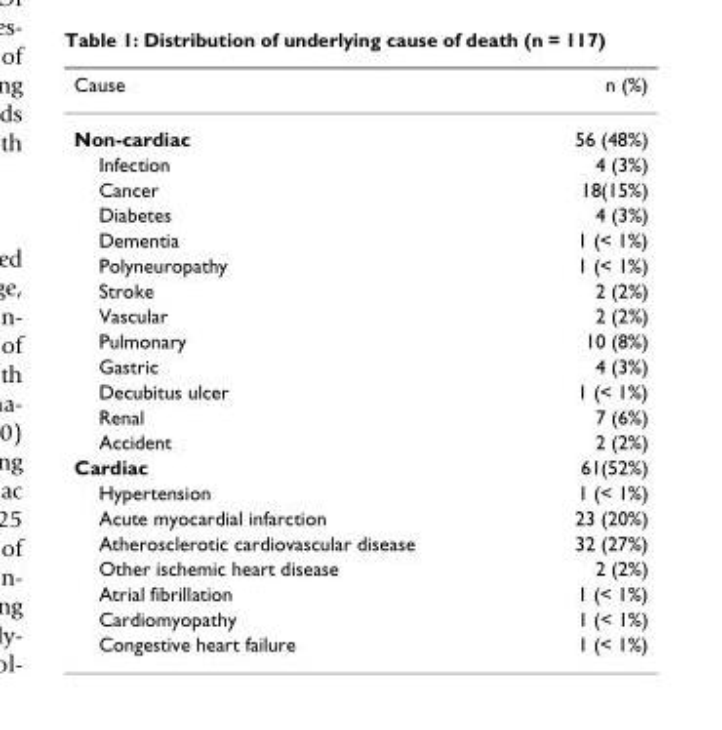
<table><thead><tr><td>Cause</td><td>n (%)</td></tr></thead><tbody><tr><td>Non-cardiac</td><td>56 (48%)</td></tr><tr><td>Infection</td><td>4 (3%)</td></tr><tr><td>Cancer</td><td>18(15%)</td></tr><tr><td>Diabetes</td><td>4 (3%)</td></tr><tr><td>Dementia</td><td>1 (&lt; 1%)</td></tr><tr><td>Polyneuropathy</td><td>1 (&lt; 1%)</td></tr><tr><td>Stroke</td><td>2 (2%)</td></tr><tr><td>Vascular</td><td>2 (2%)</td></tr><tr><td>Pulmonary</td><td>10 (8%)</td></tr><tr><td>Gastric</td><td>4 (3%)</td></tr><tr><td>Decubitus ulcer</td><td>1 (&lt; 1%)</td></tr><tr><td>Renal</td><td>7 (6%)</td></tr><tr><td>Accident</td><td>2 (2%)</td></tr><tr><td>Cardiac</td><td>61(52%)</td></tr><tr><td>Hypertension</td><td>1 (&lt; 1%)</td></tr><tr><td>Acute myocardial infarction</td><td>23 (20%)</td></tr><tr><td>Atherosclerotic cardiovascular disease</td><td>32 (27%)</td></tr><tr><td>Other ischemic heart disease</td><td>2 (2%)</td></tr><tr><td>Atrial fibrillation</td><td>1 (&lt; 1%)</td></tr><tr><td>Cardiomyopathy</td><td>1 (&lt; 1%)</td></tr><tr><td>Congestive heart failure</td><td>1 (&lt; 1%)</td></tr></tbody></table>